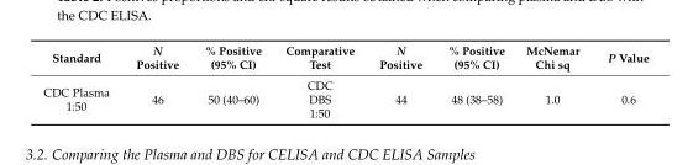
<table><thead><tr><td>Standard</td><td>N Positive</td><td>% Positive (95% CI)</td><td>Comparative Test</td><td>N Positive</td><td>% Positive (95% CI)</td><td>McNemar Chi sq</td><td>P Value</td></tr></thead><tbody><tr><td>CDC Plasma 1:50</td><td>46</td><td>50 (40–60)</td><td>CDC DBS 1:50</td><td>44</td><td>48 (38–58)</td><td>1.0</td><td>0.6</td></tr></tbody></table>